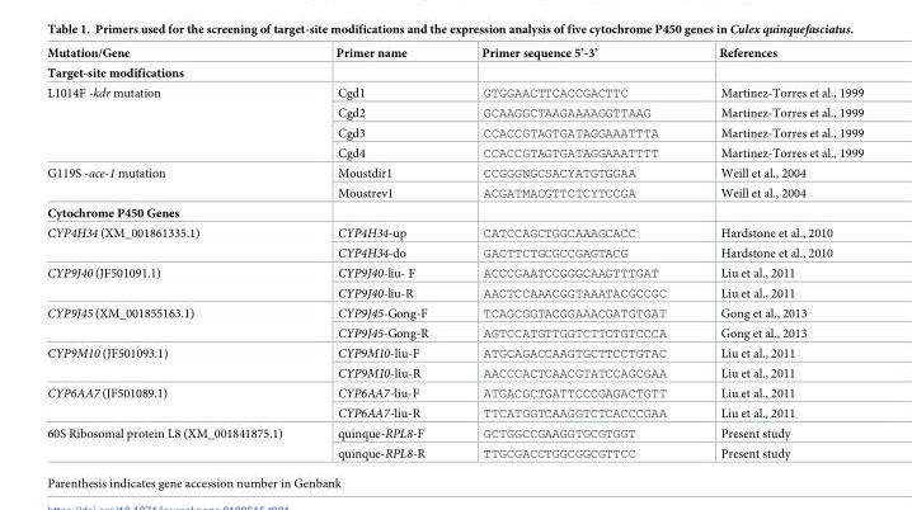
<table><thead><tr><td>Mutation/Gene</td><td>Primer name</td><td>Primer sequence 5’-3’</td><td>References</td></tr></thead><tbody><tr><td colspan="4">Target-site modifications</td></tr><tr><td rowspan="4">L1014F -kdr mutation</td><td>Cgd1</td><td>GTGGAACTTCACCGACTTC</td><td>Martinez-Torres et al., 1999</td></tr><tr><td>Cgd2</td><td>GCAAGGCTAAGAAAAGGTTAAG</td><td>Martinez-Torres et al., 1999</td></tr><tr><td>Cgd3</td><td>CCACCGTAGTGATAGGAAATTTA</td><td>Martinez-Torres et al., 1999</td></tr><tr><td>Cgd4</td><td>CCACCGTAGTGATAGGAAATTTT</td><td>Martinez-Torres et al., 1999</td></tr><tr><td rowspan="2">G119S -ace-1 mutation</td><td>Moustdir1</td><td>CCGGGNGCSACYATGTGGAA</td><td>Weill et al., 2004</td></tr><tr><td>Moustrev1</td><td>ACGATMACGTTCTCYTCCGA</td><td>Weill et al., 2004</td></tr><tr><td colspan="4">Cytochrome P450 Genes</td></tr><tr><td rowspan="2">CYP4H34 (XM_001861335.1)</td><td>CYP4H34-up</td><td>CATCCAGCTGGCAAAGCACC</td><td>Hardstone et al., 2010</td></tr><tr><td>CYP4H34-do</td><td>GACTTCTGCGCCGAGTACG</td><td>Hardstone et al., 2010</td></tr><tr><td rowspan="2">CYP9J40 (JF501091.1)</td><td>CYP9J40-liu- F</td><td>ACCCGAATCCGGGCAAGTTTGAT</td><td>Liu et al., 2011</td></tr><tr><td>CYP9J40-liu-R</td><td>AACTCCAAACGGTAAATACGCCGC</td><td>Liu et al., 2011</td></tr><tr><td rowspan="2">CYP9J45 (XM_001855163.1)</td><td>CYP9J45-Gong-F</td><td>TCAGCGGTACGGAAACGATGTGAT</td><td>Gong et al., 2013</td></tr><tr><td>CYP9J45-Gong-R</td><td>AGTCCATGTTGGTCTTCTGTCCCA</td><td>Gong et al., 2013</td></tr><tr><td rowspan="2">CYP9M10 (JF501093.1)</td><td>CYP9M10-liu-F</td><td>ATGCAGACCAAGTGCTTCCTGTAC</td><td>Liu et al., 2011</td></tr><tr><td>CYP9M10-liu-R</td><td>AACCCACTCAACGTATCCAGCGAA</td><td>Liu et al., 2011</td></tr><tr><td rowspan="2">CYP6AA7 (JF501089.1)</td><td>CYP6AA7-liu-F</td><td>ATGACGCTGATTCCCGAGACTGTT</td><td>Liu et al., 2011</td></tr><tr><td>CYP6AA7-liu-R</td><td>TTCATGGTCAAGGTCTCACCCGAA</td><td>Liu et al., 2011</td></tr><tr><td rowspan="2">60S Ribosomal protein L8 (XM_001841875.1)</td><td>quinque-RPL8-F</td><td>GCTGGCCGAAGGTGCGTGGT</td><td>Present study</td></tr><tr><td>quinque-RPL8-R</td><td>TTGCGACCTGGCGGCGTTCC</td><td>Present study</td></tr></tbody></table>